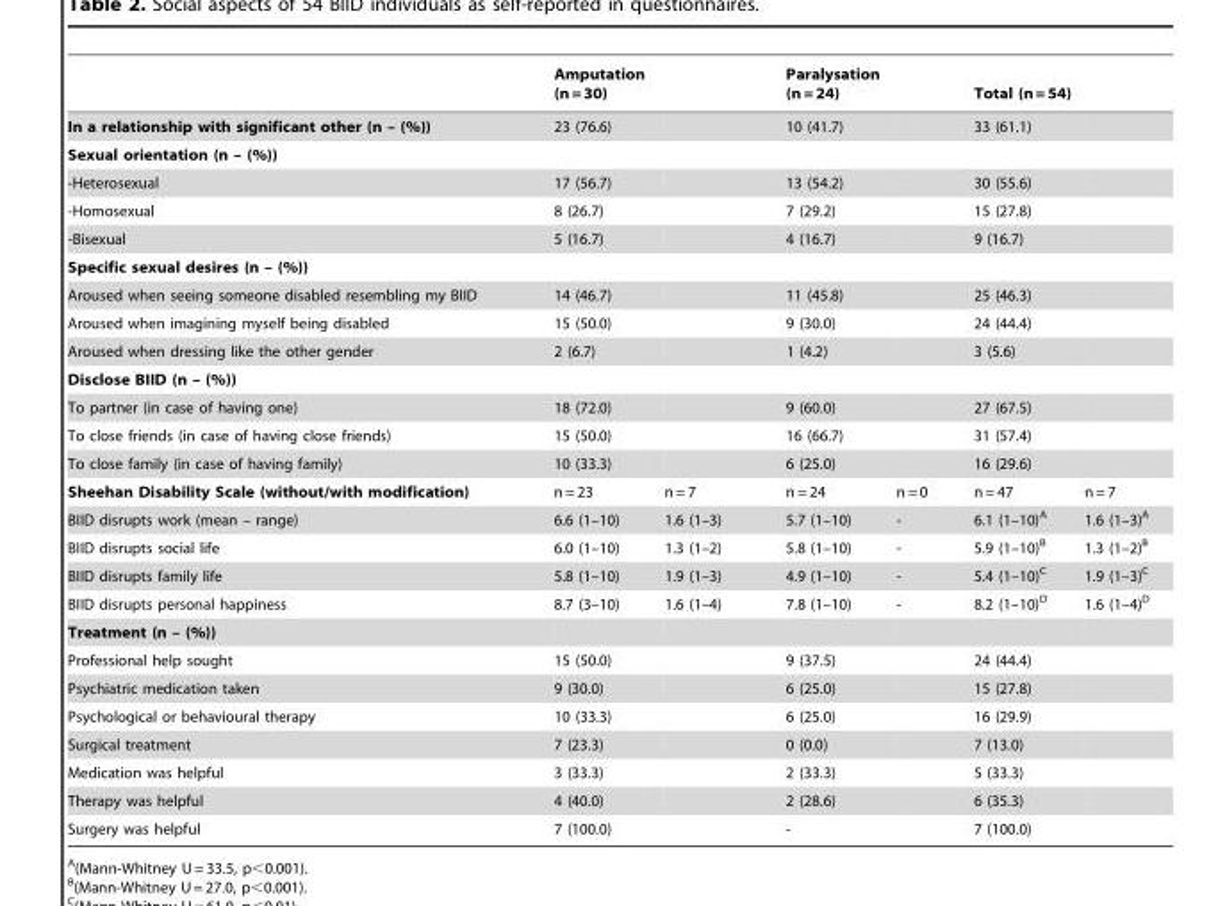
<table><thead><tr><td></td><td>Amputation (n = 30)</td><td></td><td>Paralysation (n = 24)</td><td></td><td>Total (n = 54)</td><td></td></tr></thead><tbody><tr><td>In a relationship with significant other (n – (%))</td><td>23 (76.6)</td><td></td><td>10 (41.7)</td><td></td><td>33 (61.1)</td><td></td></tr><tr><td colspan="7">Sexual orientation (n – (%))</td></tr><tr><td>-Heterosexual</td><td>17 (56.7)</td><td></td><td>13 (54.2)</td><td></td><td>30 (55.6)</td><td></td></tr><tr><td>-Homosexual</td><td>8 (26.7)</td><td></td><td>7 (29.2)</td><td></td><td>15 (27.8)</td><td></td></tr><tr><td>-Bisexual</td><td>5 (16.7)</td><td></td><td>4 (16.7)</td><td></td><td>9 (16.7)</td><td></td></tr><tr><td colspan="7">Specific sexual desires (n – (%))</td></tr><tr><td>Aroused when seeing someone disabled resembling my BIID</td><td>14 (46.7)</td><td></td><td>11 (45.8)</td><td></td><td>25 (46.3)</td><td></td></tr><tr><td>Aroused when imagining myself being disabled</td><td>15 (50.0)</td><td></td><td>9 (30.0)</td><td></td><td>24 (44.4)</td><td></td></tr><tr><td>Aroused when dressing like the other gender</td><td>2 (6.7)</td><td></td><td>1 (4.2)</td><td></td><td>3 (5.6)</td><td></td></tr><tr><td colspan="7">Disclose BIID (n – (%))</td></tr><tr><td>To partner (in case of having one)</td><td>18 (72.0)</td><td></td><td>9 (60.0)</td><td></td><td>27 (67.5)</td><td></td></tr><tr><td>To close friends (in case of having close friends)</td><td>15 (50.0)</td><td></td><td>16 (66.7)</td><td></td><td>31 (57.4)</td><td></td></tr><tr><td>To close family (in case of having family)</td><td>10 (33.3)</td><td></td><td>6 (25.0)</td><td></td><td>16 (29.6)</td><td></td></tr><tr><td>Sheehan Disability Scale (without/with modification)</td><td>n = 23</td><td>n = 7</td><td>n = 24</td><td>n = 0</td><td>n = 47</td><td>n = 7</td></tr><tr><td>BIID disrupts work (mean – range)</td><td>6.6 (1–10)</td><td>1.6 (1–3)</td><td>5.7 (1–10)</td><td>-</td><td>6.1 (1–10)<sup>A</sup></td><td>1.6 (1–3)<sup>A</sup></td></tr><tr><td>BIID disrupts social life</td><td>6.0 (1–10)</td><td>1.3 (1–2)</td><td>5.8 (1–10)</td><td>-</td><td>5.9 (1–10)<sup>B</sup></td><td>1.3 (1–2)<sup>B</sup></td></tr><tr><td>BIID disrupts family life</td><td>5.8 (1–10)</td><td>1.9 (1–3)</td><td>4.9 (1–10)</td><td>-</td><td>5.4 (1–10)<sup>C</sup></td><td>1.9 (1–3)<sup>C</sup></td></tr><tr><td>BIID disrupts personal happiness</td><td>8.7 (3–10)</td><td>1.6 (1–4)</td><td>7.8 (1–10)</td><td>-</td><td>8.2 (1–10)<sup>D</sup></td><td>1.6 (1–4)<sup>D</sup></td></tr><tr><td colspan="7">Treatment (n – (%))</td></tr><tr><td>Professional help sought</td><td>15 (50.0)</td><td></td><td>9 (37.5)</td><td></td><td>24 (44.4)</td><td></td></tr><tr><td>Psychiatric medication taken</td><td>9 (30.0)</td><td></td><td>6 (25.0)</td><td></td><td>15 (27.8)</td><td></td></tr><tr><td>Psychological or behavioural therapy</td><td>10 (33.3)</td><td></td><td>6 (25.0)</td><td></td><td>16 (29.9)</td><td></td></tr><tr><td>Surgical treatment</td><td>7 (23.3)</td><td></td><td>0 (0.0)</td><td></td><td>7 (13.0)</td><td></td></tr><tr><td>Medication was helpful</td><td>3 (33.3)</td><td></td><td>2 (33.3)</td><td></td><td>5 (33.3)</td><td></td></tr><tr><td>Therapy was helpful</td><td>4 (40.0)</td><td></td><td>2 (28.6)</td><td></td><td>6 (35.3)</td><td></td></tr><tr><td>Surgery was helpful</td><td>7 (100.0)</td><td></td><td>-</td><td></td><td>7 (100.0)</td><td></td></tr></tbody></table>